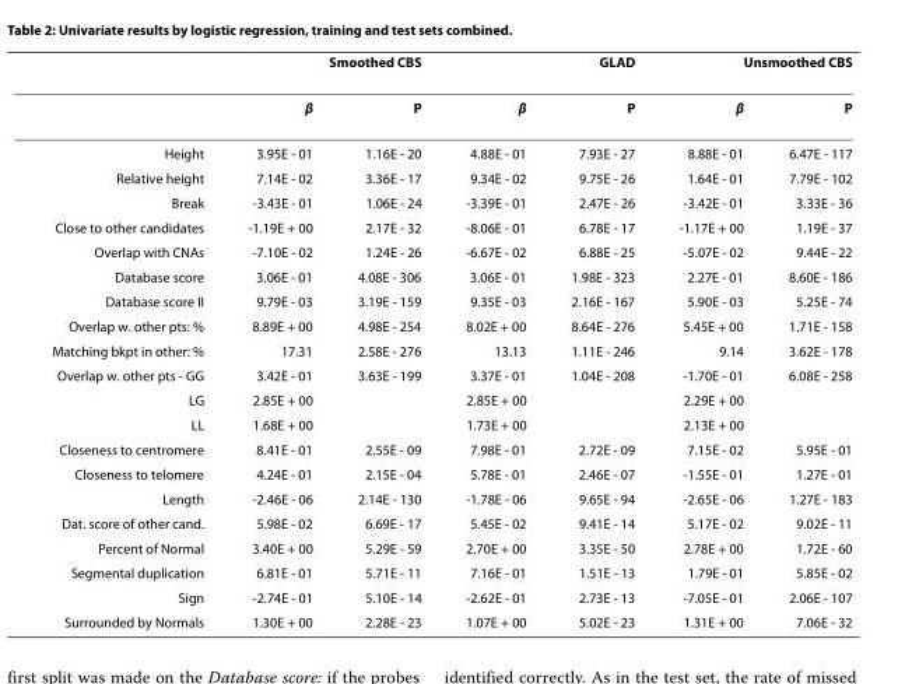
<table><thead><tr><td rowspan="2"></td><td colspan="2">Smoothed CBS</td><td colspan="2">GLAD</td><td colspan="2">Unsmoothed CBS</td></tr><tr><td>β</td><td>P</td><td>β</td><td>P</td><td>β</td><td>P</td></tr></thead><tbody><tr><td>Height</td><td>3.95E - 01</td><td>1.16E - 20</td><td>4.88E - 01</td><td>7.93E - 27</td><td>8.88E - 01</td><td>6.47E - 117</td></tr><tr><td>Relative height</td><td>7.14E - 02</td><td>3.36E - 17</td><td>9.34E - 02</td><td>9.75E - 26</td><td>1.64E - 01</td><td>7.79E - 102</td></tr><tr><td>Break</td><td>-3.43E - 01</td><td>1.06E - 24</td><td>-3.39E - 01</td><td>2.47E - 26</td><td>-3.42E - 01</td><td>3.33E - 36</td></tr><tr><td>Close to other candidates</td><td>-1.19E + 00</td><td>2.17E - 32</td><td>-8.06E - 01</td><td>6.78E - 17</td><td>-1.17E + 00</td><td>1.19E - 37</td></tr><tr><td>Overlap with CNAs</td><td>-7.10E - 02</td><td>1.24E - 26</td><td>-6.67E - 02</td><td>6.88E - 25</td><td>-5.07E - 02</td><td>9.44E - 22</td></tr><tr><td>Database score</td><td>3.06E - 01</td><td>4.08E - 306</td><td>3.06E - 01</td><td>1.98E - 323</td><td>2.27E - 01</td><td>8.60E - 186</td></tr><tr><td>Database score II</td><td>9.79E - 03</td><td>3.19E - 159</td><td>9.35E - 03</td><td>2.16E - 167</td><td>5.90E - 03</td><td>5.25E - 74</td></tr><tr><td>Overlap w. other pts: %</td><td>8.89E + 00</td><td>4.98E - 254</td><td>8.02E + 00</td><td>8.64E - 276</td><td>5.45E + 00</td><td>1.71E - 158</td></tr><tr><td>Matching bkpt in other: %</td><td>17.31</td><td>2.58E - 276</td><td>13.13</td><td>1.11E - 246</td><td>9.14</td><td>3.62E - 178</td></tr><tr><td>Overlap w. other pts - GG</td><td>3.42E - 01</td><td>3.63E - 199</td><td>3.37E - 01</td><td>1.04E - 208</td><td>-1.70E - 01</td><td>6.08E - 258</td></tr><tr><td>LG</td><td>2.85E + 00</td><td></td><td>2.85E + 00</td><td></td><td>2.29E + 00</td><td></td></tr><tr><td>LL</td><td>1.68E + 00</td><td></td><td>1.73E + 00</td><td></td><td>2.13E + 00</td><td></td></tr><tr><td>Closeness to centromere</td><td>8.41E - 01</td><td>2.55E - 09</td><td>7.98E - 01</td><td>2.72E - 09</td><td>7.15E - 02</td><td>5.95E - 01</td></tr><tr><td>Closeness to telomere</td><td>4.24E - 01</td><td>2.15E - 04</td><td>5.78E - 01</td><td>2.46E - 07</td><td>-1.55E - 01</td><td>1.27E - 01</td></tr><tr><td>Length</td><td>-2.46E - 06</td><td>2.14E - 130</td><td>-1.78E - 06</td><td>9.65E - 94</td><td>-2.65E - 06</td><td>1.27E - 183</td></tr><tr><td>Dat. score of other cand.</td><td>5.98E - 02</td><td>6.69E - 17</td><td>5.45E - 02</td><td>9.41E - 14</td><td>5.17E - 02</td><td>9.02E - 11</td></tr><tr><td>Percent of Normal</td><td>3.40E + 00</td><td>5.29E - 59</td><td>2.70E + 00</td><td>3.35E - 50</td><td>2.78E + 00</td><td>1.72E - 60</td></tr><tr><td>Segmental duplication</td><td>6.81E - 01</td><td>5.71E - 11</td><td>7.16E - 01</td><td>1.51E - 13</td><td>1.79E - 01</td><td>5.85E - 02</td></tr><tr><td>Sign</td><td>-2.74E - 01</td><td>5.10E - 14</td><td>-2.62E - 01</td><td>2.73E - 13</td><td>-7.05E - 01</td><td>2.06E - 107</td></tr><tr><td>Surrounded by Normals</td><td>1.30E + 00</td><td>2.28E - 23</td><td>1.07E + 00</td><td>5.02E - 23</td><td>1.31E + 00</td><td>7.06E - 32</td></tr></tbody></table>